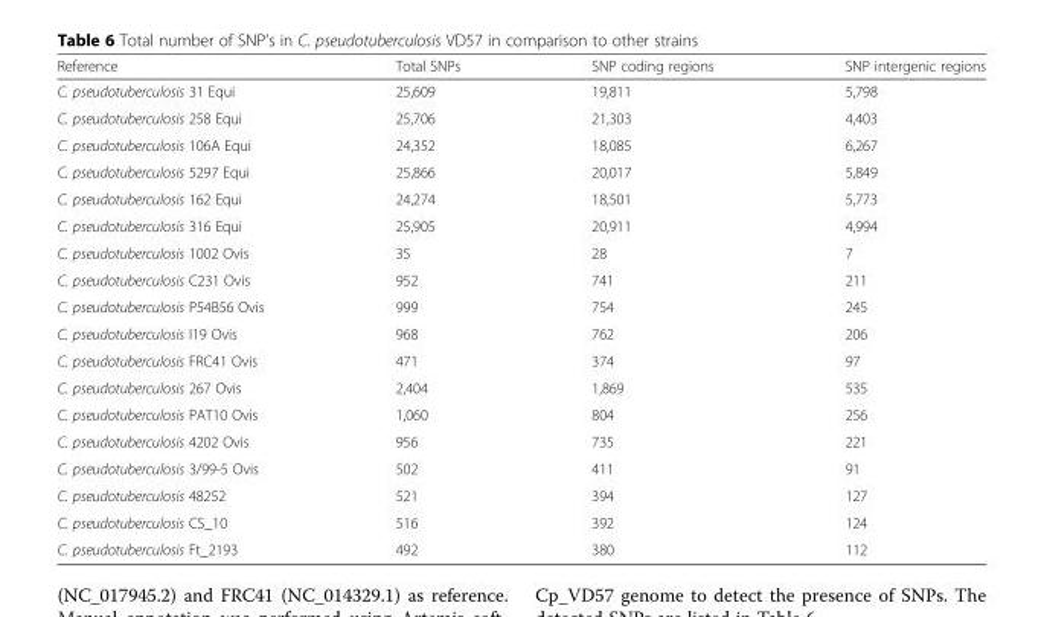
<table><thead><tr><td>Reference</td><td>Total SNPs</td><td>SNP coding regions</td><td>SNP intergenic regions</td></tr></thead><tbody><tr><td>C. pseudotuberculosis 31 Equi</td><td>25,609</td><td>19,811</td><td>5,798</td></tr><tr><td>C. pseudotuberculosis 258 Equi</td><td>25,706</td><td>21,303</td><td>4,403</td></tr><tr><td>C. pseudotuberculosis 106A Equi</td><td>24,352</td><td>18,085</td><td>6,267</td></tr><tr><td>C. pseudotuberculosis 5297 Equi</td><td>25,866</td><td>20,017</td><td>5,849</td></tr><tr><td>C. pseudotuberculosis 162 Equi</td><td>24,274</td><td>18,501</td><td>5,773</td></tr><tr><td>C. pseudotuberculosis 316 Equi</td><td>25,905</td><td>20,911</td><td>4,994</td></tr><tr><td>C. pseudotuberculosis 1002 Ovis</td><td>35</td><td>28</td><td>7</td></tr><tr><td>C. pseudotuberculosis C231 Ovis</td><td>952</td><td>741</td><td>211</td></tr><tr><td>C. pseudotuberculosis P54B56 Ovis</td><td>999</td><td>754</td><td>245</td></tr><tr><td>C. pseudotuberculosis I19 Ovis</td><td>968</td><td>762</td><td>206</td></tr><tr><td>C. pseudotuberculosis FRC41 Ovis</td><td>471</td><td>374</td><td>97</td></tr><tr><td>C. pseudotuberculosis 267 Ovis</td><td>2,404</td><td>1,869</td><td>535</td></tr><tr><td>C. pseudotuberculosis PAT10 Ovis</td><td>1,060</td><td>804</td><td>256</td></tr><tr><td>C. pseudotuberculosis 4202 Ovis</td><td>956</td><td>735</td><td>221</td></tr><tr><td>C. pseudotuberculosis 3/99-5 Ovis</td><td>502</td><td>411</td><td>91</td></tr><tr><td>C. pseudotuberculosis 48252</td><td>521</td><td>394</td><td>127</td></tr><tr><td>C. pseudotuberculosis CS_10</td><td>516</td><td>392</td><td>124</td></tr><tr><td>C. pseudotuberculosis Ft_2193</td><td>492</td><td>380</td><td>112</td></tr></tbody></table>